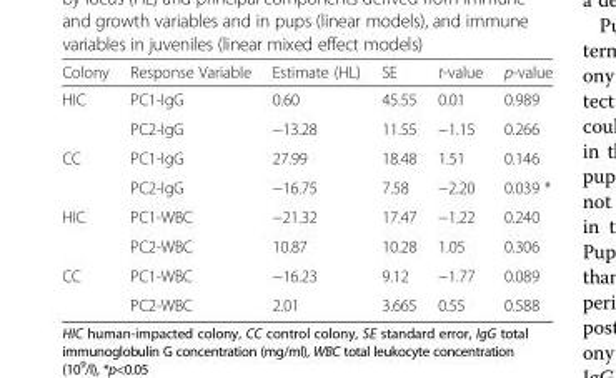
<table><thead><tr><td>Colony</td><td>Response Variable</td><td>Estimate (HL)</td><td>SE</td><td>t-value</td><td>p-value</td></tr></thead><tbody><tr><td rowspan="2">HIC</td><td>PC1-IgG</td><td>0.60</td><td>45.55</td><td>0.01</td><td>0.989</td></tr><tr><td>PC2-IgG</td><td>−13.28</td><td>11.55</td><td>−1.15</td><td>0.266</td></tr><tr><td rowspan="2">CC</td><td>PC1-IgG</td><td>27.99</td><td>18.48</td><td>1.51</td><td>0.146</td></tr><tr><td>PC2-IgG</td><td>−16.75</td><td>7.58</td><td>−2.20</td><td>0.039 *</td></tr><tr><td rowspan="2">HIC</td><td>PC1-WBC</td><td>−21.32</td><td>17.47</td><td>−1.22</td><td>0.240</td></tr><tr><td>PC2-WBC</td><td>10.87</td><td>10.28</td><td>1.05</td><td>0.306</td></tr><tr><td rowspan="2">CC</td><td>PC1-WBC</td><td>−16.23</td><td>9.12</td><td>−1.77</td><td>0.089</td></tr><tr><td>PC2-WBC</td><td>2.01</td><td>3.665</td><td>0.55</td><td>0.588</td></tr></tbody></table>